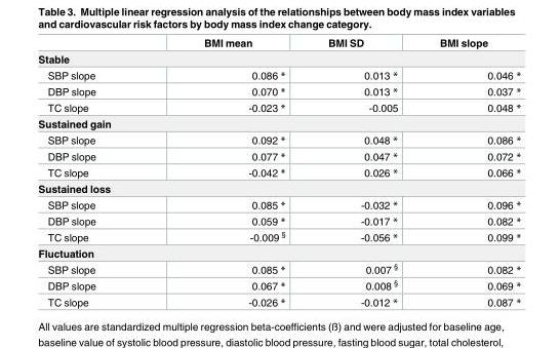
<table><thead><tr><td></td><td>BMI mean</td><td>BMI SD</td><td>BMI slope</td></tr></thead><tbody><tr><td colspan="4">Stable</td></tr><tr><td>SBP slope</td><td>0.086 *</td><td>0.013 *</td><td>0.046 *</td></tr><tr><td>DBP slope</td><td>0.070 *</td><td>0.013 *</td><td>0.037 *</td></tr><tr><td>TC slope</td><td>-0.023 *</td><td>-0.005</td><td>0.048 *</td></tr><tr><td colspan="4">Sustained gain</td></tr><tr><td>SBP slope</td><td>0.092 *</td><td>0.048 *</td><td>0.086 *</td></tr><tr><td>DBP slope</td><td>0.077 *</td><td>0.047 *</td><td>0.072 *</td></tr><tr><td>TC slope</td><td>-0.042 *</td><td>0.026 *</td><td>0.066 *</td></tr><tr><td colspan="4">Sustained loss</td></tr><tr><td>SBP slope</td><td>0.085 *</td><td>-0.032 *</td><td>0.096 *</td></tr><tr><td>DBP slope</td><td>0.059 *</td><td>-0.017 *</td><td>0.082 *</td></tr><tr><td>TC slope</td><td>-0.009 <sup>§</sup></td><td>-0.056 *</td><td>0.099 *</td></tr><tr><td colspan="4">Fluctuation</td></tr><tr><td>SBP slope</td><td>0.085 *</td><td>0.007 <sup>§</sup></td><td>0.082 *</td></tr><tr><td>DBP slope</td><td>0.067 *</td><td>0.008 <sup>§</sup></td><td>0.069 *</td></tr><tr><td>TC slope</td><td>-0.026 *</td><td>-0.012 *</td><td>0.087 *</td></tr></tbody></table>